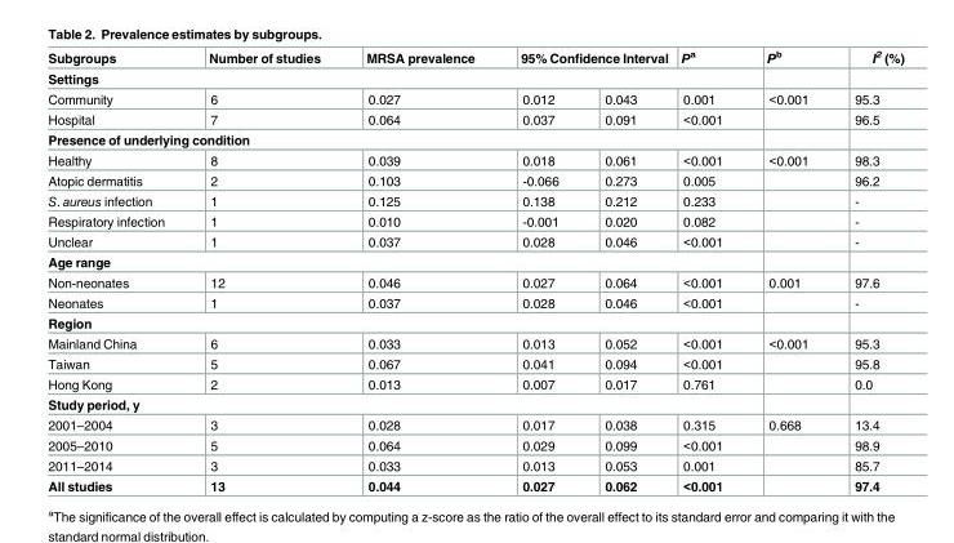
<table><thead><tr><td>Subgroups</td><td>Number of studies</td><td>MRSA prevalence</td><td colspan="2">95% Confidence Interval</td><td>P<sup>a</sup></td><td rowspan="3">Pb &lt;0.001</td><td rowspan="3">I<sup>2</sup> (%) 95.3</td></tr><tr><td colspan="6">Settings</td></tr><tr><td>Community</td><td>6</td><td>0.027</td><td>0.012</td><td>0.043</td><td>0.001</td></tr></thead><tbody><tr><td>Hospital</td><td>7</td><td>0.064</td><td>0.037</td><td>0.091</td><td>&lt;0.001</td><td></td><td>96.5</td></tr><tr><td colspan="8">Presence of underlying condition</td></tr><tr><td>Healthy</td><td>8</td><td>0.039</td><td>0.018</td><td>0.061</td><td>&lt;0.001</td><td>&lt;0.001</td><td>98.3</td></tr><tr><td>Atopic dermatitis</td><td>2</td><td>0.103</td><td>-0.066</td><td>0.273</td><td>0.005</td><td></td><td>96.2</td></tr><tr><td>S. aureus infection</td><td>1</td><td>0.125</td><td>0.138</td><td>0.212</td><td>0.233</td><td></td><td>-</td></tr><tr><td>Respiratory infection</td><td>1</td><td>0.010</td><td>-0.001</td><td>0.020</td><td>0.082</td><td></td><td>-</td></tr><tr><td>Unclear</td><td>1</td><td>0.037</td><td>0.028</td><td>0.046</td><td>&lt;0.001</td><td></td><td>-</td></tr><tr><td colspan="8">Age range</td></tr><tr><td>Non-neonates</td><td>12</td><td>0.046</td><td>0.027</td><td>0.064</td><td>&lt;0.001</td><td>0.001</td><td>97.6</td></tr><tr><td>Neonates</td><td>1</td><td>0.037</td><td>0.028</td><td>0.046</td><td>&lt;0.001</td><td></td><td>-</td></tr><tr><td colspan="8">Region</td></tr><tr><td>Mainland China</td><td>6</td><td>0.033</td><td>0.013</td><td>0.052</td><td>&lt;0.001</td><td>&lt;0.001</td><td>95.3</td></tr><tr><td>Taiwan</td><td>5</td><td>0.067</td><td>0.041</td><td>0.094</td><td>&lt;0.001</td><td></td><td>95.8</td></tr><tr><td>Hong Kong</td><td>2</td><td>0.013</td><td>0.007</td><td>0.017</td><td>0.761</td><td></td><td>0.0</td></tr><tr><td colspan="8">Study period, y</td></tr><tr><td>2001–2004</td><td>3</td><td>0.028</td><td>0.017</td><td>0.038</td><td>0.315</td><td>0.668</td><td>13.4</td></tr><tr><td>2005–2010</td><td>5</td><td>0.064</td><td>0.029</td><td>0.099</td><td>&lt;0.001</td><td></td><td>98.9</td></tr><tr><td>2011–2014</td><td>3</td><td>0.033</td><td>0.013</td><td>0.053</td><td>0.001</td><td></td><td>85.7</td></tr><tr><td>All studies</td><td>13</td><td>0.044</td><td>0.027</td><td>0.062</td><td>&lt;0.001</td><td></td><td>97.4</td></tr></tbody></table>